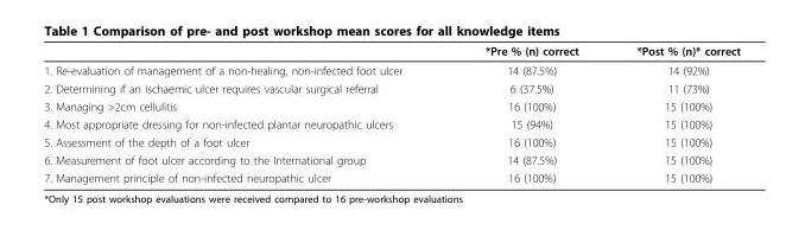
<table><thead><tr><td></td><td>*Pre % (n) correct</td><td>*Post % (n)* correct</td></tr></thead><tbody><tr><td>1. Re-evaluation of management of a non-healing, non-infected foot ulcer</td><td>14 (87.5%)</td><td>14 (92%)</td></tr><tr><td>2. Determining if an ischaemic ulcer requires vascular surgical referral</td><td>6 (37.5%)</td><td>11 (73%)</td></tr><tr><td>3. Managing &gt;2cm cellulitis</td><td>16 (100%)</td><td>15 (100%)</td></tr><tr><td>4. Most appropriate dressing for non-infected plantar neuropathic ulcers</td><td>15 (94%)</td><td>15 (100%)</td></tr><tr><td>5. Assessment of the depth of a foot ulcer</td><td>16 (100%)</td><td>15 (100%)</td></tr><tr><td>6. Measurement of foot ulcer according to the International group</td><td>14 (87.5%)</td><td>15 (100%)</td></tr><tr><td>7. Management principle of non-infected neuropathic ulcer</td><td>16 (100%)</td><td>15 (100%)</td></tr></tbody></table>